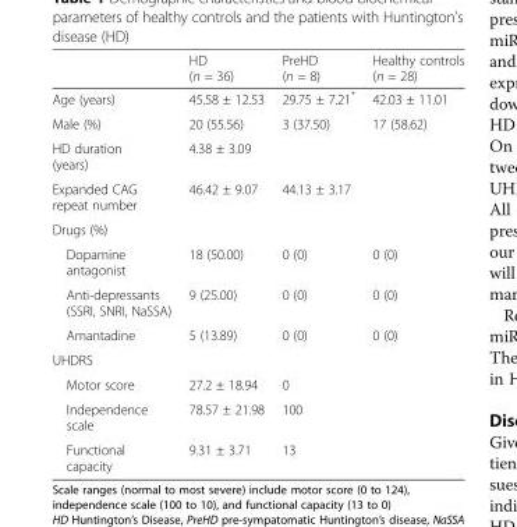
<table><thead><tr><td></td><td>HD (n = 36)</td><td>PreHD (n = 8)</td><td>Healthy controls (n = 28)</td></tr></thead><tbody><tr><td>Age (years)</td><td>45.58 ± 12.53</td><td>29.75 ± 7.21*</td><td>42.03 ± 11.01</td></tr><tr><td>Male (%)</td><td>20 (55.56)</td><td>3 (37.50)</td><td>17 (58.62)</td></tr><tr><td>HD duration (years)</td><td>4.38 ± 3.09</td><td></td><td></td></tr><tr><td>Expanded CAG repeat number</td><td>46.42 ± 9.07</td><td>44.13 ± 3.17</td><td></td></tr><tr><td colspan="4">Drugs (%)</td></tr><tr><td>Dopamine antagonist</td><td>18 (50.00)</td><td>0 (0)</td><td>0 (0)</td></tr><tr><td>Anti-depressants (SSRI, SNRI, NaSSA)</td><td>9 (25.00)</td><td>0 (0)</td><td>0 (0)</td></tr><tr><td>Amantadine</td><td>5 (13.89)</td><td>0 (0)</td><td>0 (0)</td></tr><tr><td colspan="4">UHDRS</td></tr><tr><td>Motor score</td><td>27.2 ± 18.94</td><td>0</td><td></td></tr><tr><td>Independence scale</td><td>78.57 ± 21.98</td><td>100</td><td></td></tr><tr><td>Functional capacity</td><td>9.31 ± 3.71</td><td>13</td><td></td></tr></tbody></table>